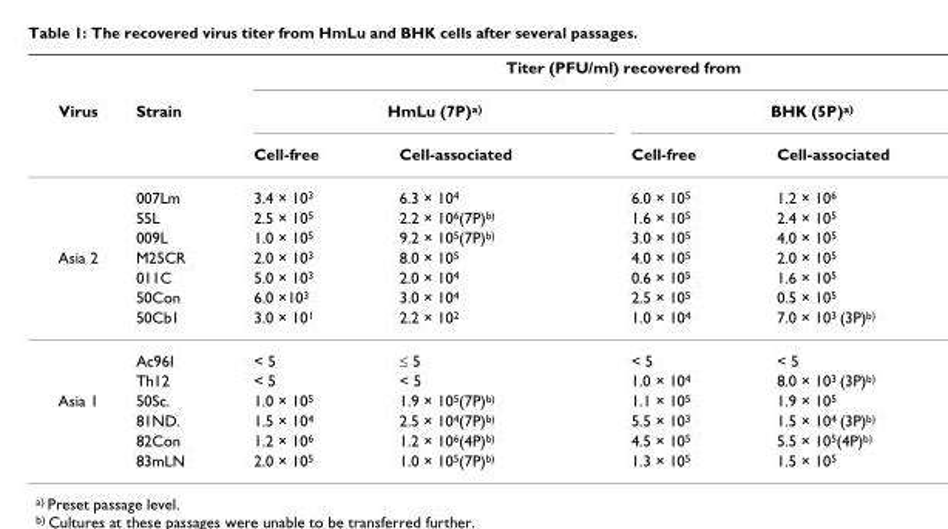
<table><thead><tr><td rowspan="3">Virus</td><td rowspan="3">Strain</td><td colspan="4">Titer (PFU/ml) recovered from</td></tr><tr><td colspan="2">HmLu (7P)<sup>a)</sup></td><td colspan="2">BHK (5P)<sup>a)</sup></td></tr><tr><td>Cell-free</td><td>Cell-associated</td><td>Cell-free</td><td>Cell-associated</td></tr></thead><tbody><tr><td></td><td>007Lm</td><td>3.4 × 10<sup>3</sup></td><td>6.3 × 10<sup>4</sup></td><td>6.0 × 10<sup>5</sup></td><td>1.2 × 10<sup>6</sup></td></tr><tr><td></td><td>55L</td><td>2.5 × 10<sup>5</sup></td><td>2.2 × 10<sup>6</sup>(7P)<sup>b)</sup></td><td>1.6 × 10<sup>5</sup></td><td>2.4 × 10<sup>5</sup></td></tr><tr><td></td><td>009L</td><td>1.0 × 10<sup>5</sup></td><td>9.2 × 10<sup>5</sup>(7P)<sup>b)</sup></td><td>3.0 × 10<sup>5</sup></td><td>4.0 × 10<sup>5</sup></td></tr><tr><td rowspan="6">Asia 2</td><td>M25CR</td><td>2.0 × 10<sup>3</sup></td><td>8.0 × 10<sup>5</sup></td><td>4.0 × 10<sup>5</sup></td><td>2.0 × 10<sup>5</sup></td></tr><tr><td>011C</td><td>5.0 × 10<sup>3</sup></td><td>2.0 × 10<sup>4</sup></td><td>0.6 × 10<sup>5</sup></td><td>1.6 × 10<sup>5</sup></td></tr><tr><td>50Con</td><td>6.0 ×10<sup>3</sup></td><td>3.0 × 10<sup>4</sup></td><td>2.5 × 10<sup>5</sup></td><td>0.5 × 10<sup>5</sup></td></tr><tr><td>50Cb1</td><td>3.0 × 10<sup>1</sup></td><td>2.2 × 10<sup>2</sup></td><td>1.0 × 10<sup>4</sup></td><td>7.0 × 10<sup>3</sup> (3P)<sup>b)</sup></td></tr><tr><td>Ac96I</td><td>&lt; 5</td><td>≤ 5</td><td>&lt; 5</td><td>&lt; 5</td></tr><tr><td>Th12</td><td>&lt; 5</td><td>&lt; 5</td><td>1.0 × 10<sup>4</sup></td><td>8.0 × 10<sup>3</sup> (3P)<sup>b)</sup></td></tr><tr><td rowspan="4">Asia 1</td><td>50Sc.</td><td>1.0 × 10<sup>5</sup></td><td>1.9 × 10<sup>5</sup>(7P)<sup>b)</sup></td><td>1.1 × 10<sup>5</sup></td><td>1.9 × 10<sup>5</sup></td></tr><tr><td>81ND.</td><td>1.5 × 10<sup>4</sup></td><td>2.5 × 10<sup>4</sup>(7P)<sup>b)</sup></td><td>5.5 × 10<sup>3</sup></td><td>1.5 × 10<sup>4</sup> (3P)<sup>b)</sup></td></tr><tr><td>82Con</td><td>1.2 × 10<sup>6</sup></td><td>1.2 × 10<sup>6</sup>(4P)<sup>b)</sup></td><td>4.5 × 10<sup>5</sup></td><td>5.5 × 10<sup>5</sup>(4P)<sup>b)</sup></td></tr><tr><td>83mLN</td><td>2.0 × 10<sup>5</sup></td><td>1.0 × 10<sup>5</sup>(7P)<sup>b)</sup></td><td>1.3 × 10<sup>5</sup></td><td>1.5 × 10<sup>5</sup></td></tr></tbody></table>